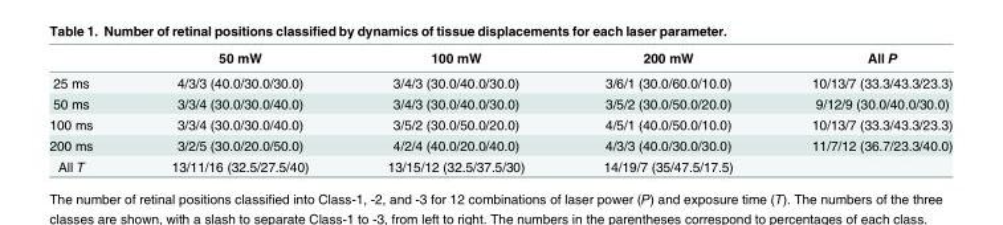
<table><thead><tr><td></td><td>50 mW</td><td>100 mW</td><td>200 mW</td><td>All P</td></tr></thead><tbody><tr><td>25 ms</td><td>4/3/3 (40.0/30.0/30.0)</td><td>3/4/3 (30.0/40.0/30.0)</td><td>3/6/1 (30.0/60.0/10.0)</td><td>10/13/7 (33.3/43.3/23.3)</td></tr><tr><td>50 ms</td><td>3/3/4 (30.0/30.0/40.0)</td><td>3/4/3 (30.0/40.0/30.0)</td><td>3/5/2 (30.0/50.0/20.0)</td><td>9/12/9 (30.0/40.0/30.0)</td></tr><tr><td>100 ms</td><td>3/3/4 (30.0/30.0/40.0)</td><td>3/5/2 (30.0/50.0/20.0)</td><td>4/5/1 (40.0/50.0/10.0)</td><td>10/13/7 (33.3/43.3/23.3)</td></tr><tr><td>200 ms</td><td>3/2/5 (30.0/20.0/50.0)</td><td>4/2/4 (40.0/20.0/40.0)</td><td>4/3/3 (40.0/30.0/30.0)</td><td>11/7/12 (36.7/23.3/40.0)</td></tr><tr><td>All T</td><td>13/11/16 (32.5/27.5/40)</td><td>13/15/12 (32.5/37.5/30)</td><td>14/19/7 (35/47.5/17.5)</td><td></td></tr></tbody></table>